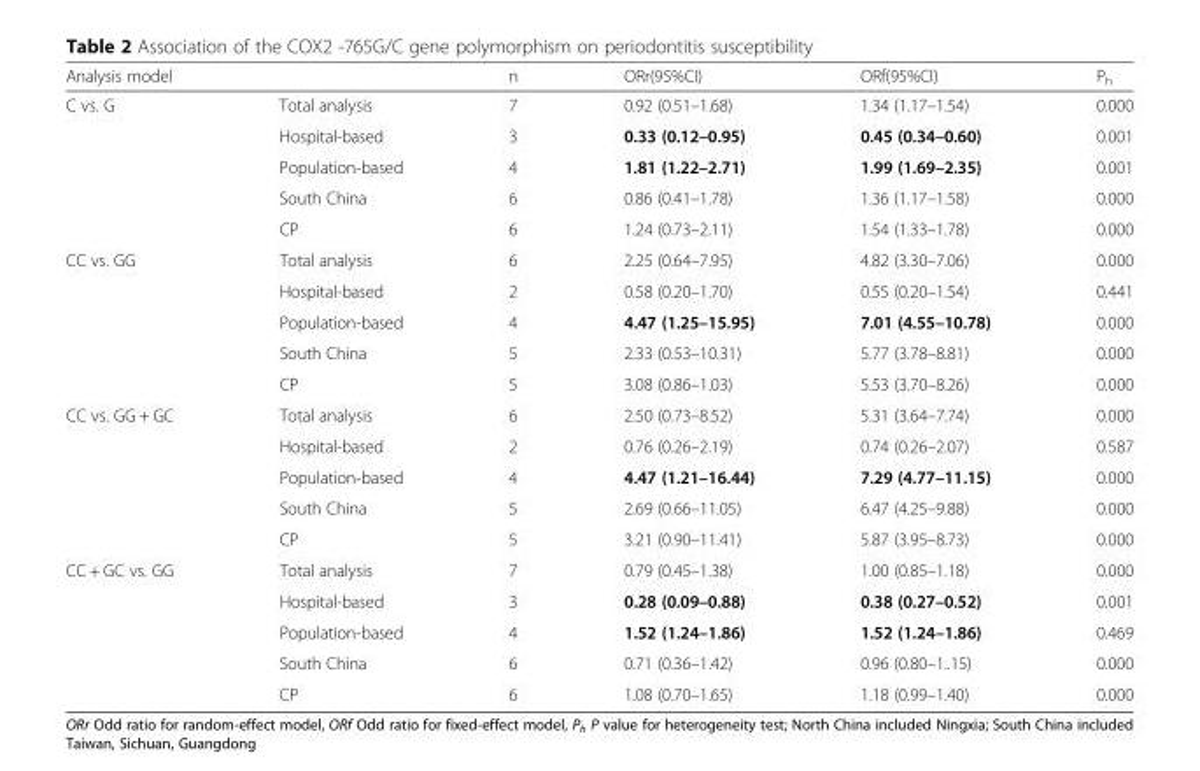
<table><thead><tr><td colspan="2">Analysis model</td><td rowspan="2">n 7</td><td rowspan="2">ORr(95%CI) 0.92 (0.51–1.68)</td><td rowspan="2">ORf(95%CI) 1.34 (1.17–1.54)</td><td rowspan="2">P<sub>h</sub> 0.000</td></tr><tr><td>C vs. G</td><td>Total analysis</td></tr></thead><tbody><tr><td></td><td>Hospital-based</td><td>3</td><td>0.33 (0.12–0.95)</td><td>0.45 (0.34–0.60)</td><td>0.001</td></tr><tr><td></td><td>Population-based</td><td>4</td><td>1.81 (1.22–2.71)</td><td>1.99 (1.69–2.35)</td><td>0.001</td></tr><tr><td></td><td>South China</td><td>6</td><td>0.86 (0.41–1.78)</td><td>1.36 (1.17–1.58)</td><td>0.000</td></tr><tr><td></td><td>CP</td><td>6</td><td>1.24 (0.73–2.11)</td><td>1.54 (1.33–1.78)</td><td>0.000</td></tr><tr><td rowspan="5">CC vs. GG</td><td>Total analysis</td><td>6</td><td>2.25 (0.64–7.95)</td><td>4.82 (3.30–7.06)</td><td>0.000</td></tr><tr><td>Hospital-based</td><td>2</td><td>0.58 (0.20–1.70)</td><td>0.55 (0.20–1.54)</td><td>0.441</td></tr><tr><td>Population-based</td><td>4</td><td>4.47 (1.25–15.95)</td><td>7.01 (4.55–10.78)</td><td>0.000</td></tr><tr><td>South China</td><td>5</td><td>2.33 (0.53–10.31)</td><td>5.77 (3.78–8.81)</td><td>0.000</td></tr><tr><td>CP</td><td>5</td><td>3.08 (0.86–1.03)</td><td>5.53 (3.70–8.26)</td><td>0.000</td></tr><tr><td rowspan="5">CC vs. GG + GC</td><td>Total analysis</td><td>6</td><td>2.50 (0.73–8.52)</td><td>5.31 (3.64–7.74)</td><td>0.000</td></tr><tr><td>Hospital-based</td><td>2</td><td>0.76 (0.26–2.19)</td><td>0.74 (0.26–2.07)</td><td>0.587</td></tr><tr><td>Population-based</td><td>4</td><td>4.47 (1.21–16.44)</td><td>7.29 (4.77–11.15)</td><td>0.000</td></tr><tr><td>South China</td><td>5</td><td>2.69 (0.66–11.05)</td><td>6.47 (4.25–9.88)</td><td>0.000</td></tr><tr><td>CP</td><td>5</td><td>3.21 (0.90–11.41)</td><td>5.87 (3.95–8.73)</td><td>0.000</td></tr><tr><td rowspan="5">CC + GC vs. GG</td><td>Total analysis</td><td>7</td><td>0.79 (0.45–1.38)</td><td>1.00 (0.85–1.18)</td><td>0.000</td></tr><tr><td>Hospital-based</td><td>3</td><td>0.28 (0.09–0.88)</td><td>0.38 (0.27–0.52)</td><td>0.001</td></tr><tr><td>Population-based</td><td>4</td><td>1.52 (1.24–1.86)</td><td>1.52 (1.24–1.86)</td><td>0.469</td></tr><tr><td>South China</td><td>6</td><td>0.71 (0.36–1.42)</td><td>0.96 (0.80–1..15)</td><td>0.000</td></tr><tr><td>CP</td><td>6</td><td>1.08 (0.70–1.65)</td><td>1.18 (0.99–1.40)</td><td>0.000</td></tr></tbody></table>